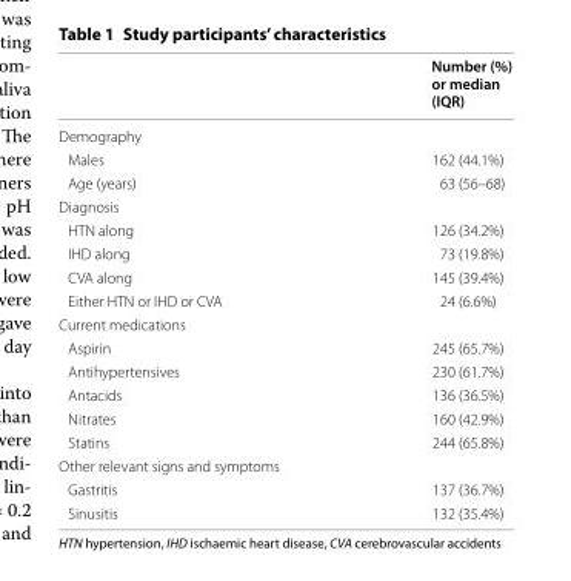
<table><thead><tr><td></td><td>Number (%) or median (IQR)</td></tr></thead><tbody><tr><td colspan="2">Demography</td></tr><tr><td>Males</td><td>162 (44.1%)</td></tr><tr><td>Age (years)</td><td>63 (56–68)</td></tr><tr><td colspan="2">Diagnosis</td></tr><tr><td>HTN along</td><td>126 (34.2%)</td></tr><tr><td>IHD along</td><td>73 (19.8%)</td></tr><tr><td>CVA along</td><td>145 (39.4%)</td></tr><tr><td>Either HTN or IHD or CVA</td><td>24 (6.6%)</td></tr><tr><td colspan="2">Current medications</td></tr><tr><td>Aspirin</td><td>245 (65.7%)</td></tr><tr><td>Antihypertensives</td><td>230 (61.7%)</td></tr><tr><td>Antacids</td><td>136 (36.5%)</td></tr><tr><td>Nitrates</td><td>160 (42.9%)</td></tr><tr><td>Statins</td><td>244 (65.8%)</td></tr><tr><td colspan="2">Other relevant signs and symptoms</td></tr><tr><td>Gastritis</td><td>137 (36.7%)</td></tr><tr><td>Sinusitis</td><td>132 (35.4%)</td></tr></tbody></table>